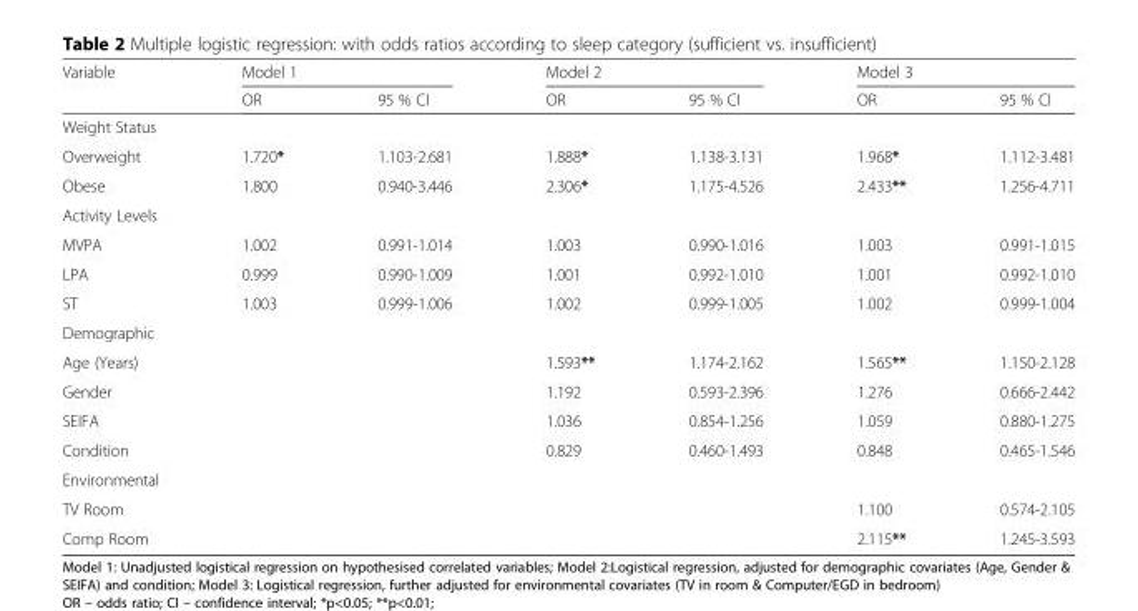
<table><thead><tr><td rowspan="2">Variable</td><td colspan="2">Model 1</td><td colspan="2">Model 2</td><td colspan="2">Model 3</td></tr><tr><td>OR</td><td>95 % CI</td><td>OR</td><td>95 % CI</td><td>OR</td><td>95 % CI</td></tr></thead><tbody><tr><td colspan="7">Weight Status</td></tr><tr><td>Overweight</td><td>1.720*</td><td>1.103-2.681</td><td>1.888*</td><td>1.138-3.131</td><td>1.968*</td><td>1.112-3.481</td></tr><tr><td>Obese</td><td>1.800</td><td>0.940-3.446</td><td>2.306*</td><td>1.175-4.526</td><td>2.433**</td><td>1.256-4.711</td></tr><tr><td colspan="7">Activity Levels</td></tr><tr><td>MVPA</td><td>1.002</td><td>0.991-1.014</td><td>1.003</td><td>0.990-1.016</td><td>1.003</td><td>0.991-1.015</td></tr><tr><td>LPA</td><td>0.999</td><td>0.990-1.009</td><td>1.001</td><td>0.992-1.010</td><td>1.001</td><td>0.992-1.010</td></tr><tr><td>ST</td><td>1.003</td><td>0.999-1.006</td><td>1.002</td><td>0.999-1.005</td><td>1.002</td><td>0.999-1.004</td></tr><tr><td colspan="7">Demographic</td></tr><tr><td>Age (Years)</td><td></td><td></td><td>1.593**</td><td>1.174-2.162</td><td>1.565**</td><td>1.150-2.128</td></tr><tr><td>Gender</td><td></td><td></td><td>1.192</td><td>0.593-2.396</td><td>1.276</td><td>0.666-2.442</td></tr><tr><td>SEIFA</td><td></td><td></td><td>1.036</td><td>0.854-1.256</td><td>1.059</td><td>0.880-1.275</td></tr><tr><td>Condition</td><td></td><td></td><td>0.829</td><td>0.460-1.493</td><td>0.848</td><td>0.465-1.546</td></tr><tr><td colspan="7">Environmental</td></tr><tr><td>TV Room</td><td></td><td></td><td></td><td></td><td>1.100</td><td>0.574-2.105</td></tr><tr><td>Comp Room</td><td></td><td></td><td></td><td></td><td>2.115**</td><td>1.245-3.593</td></tr></tbody></table>